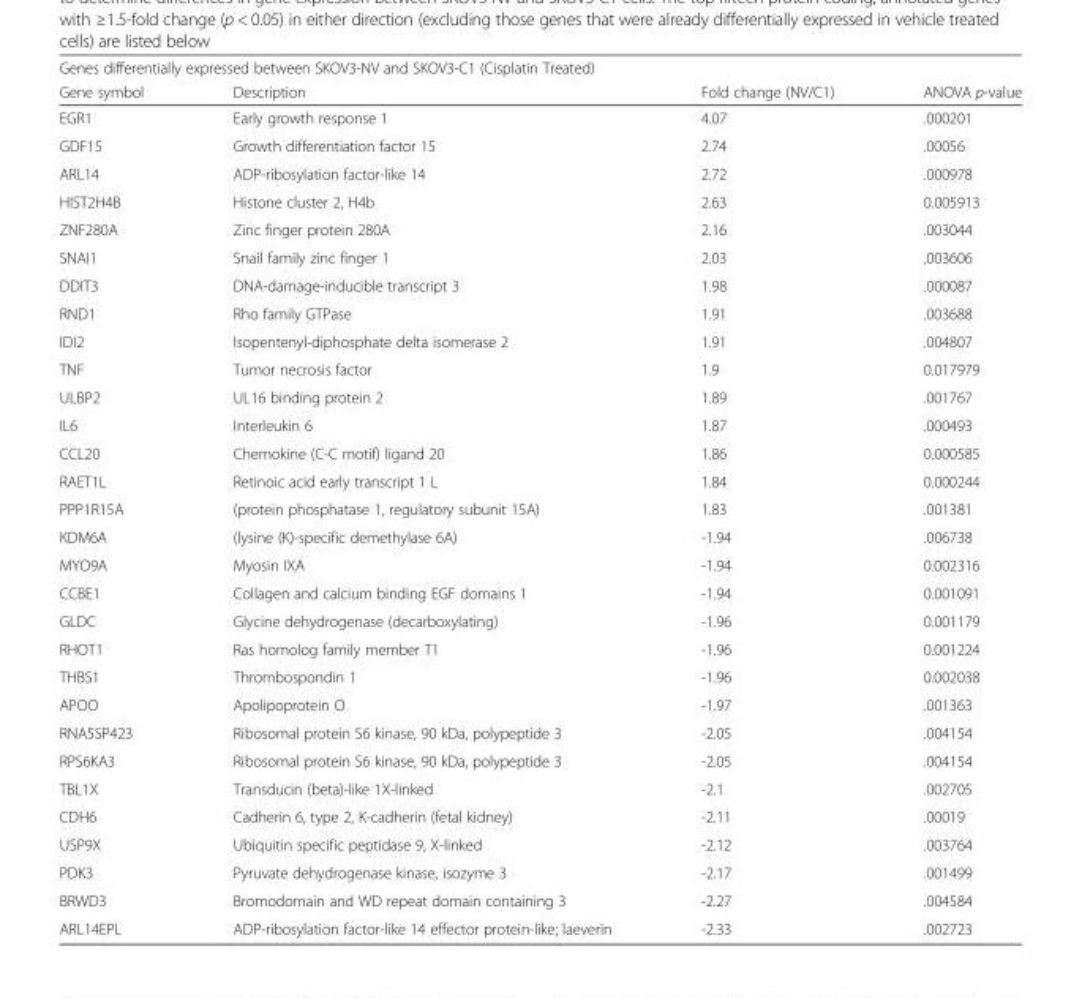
<table><thead><tr><td colspan="4">Genes differentially expressed between SKOV3-NV and SKOV3-C1 (Cisplatin Treated)</td></tr><tr><td>Gene symbol</td><td>Description</td><td>Fold change (NV/C1)</td><td>ANOVA p-value</td></tr></thead><tbody><tr><td>EGR1</td><td>Early growth response 1</td><td>4.07</td><td>.000201</td></tr><tr><td>GDF15</td><td>Growth differentiation factor 15</td><td>2.74</td><td>.00056</td></tr><tr><td>ARL14</td><td>ADP-ribosylation factor-like 14</td><td>2.72</td><td>.000978</td></tr><tr><td>HIST2H4B</td><td>Histone cluster 2, H4b</td><td>2.63</td><td>0.005913</td></tr><tr><td>ZNF280A</td><td>Zinc finger protein 280A</td><td>2.16</td><td>.003044</td></tr><tr><td>SNAI1</td><td>Snail family zinc finger 1</td><td>2.03</td><td>.003606</td></tr><tr><td>DDIT3</td><td>DNA-damage-inducible transcript 3</td><td>1.98</td><td>.000087</td></tr><tr><td>RND1</td><td>Rho family GTPase</td><td>1.91</td><td>.003688</td></tr><tr><td>IDI2</td><td>Isopentenyl-diphosphate delta isomerase 2</td><td>1.91</td><td>.004807</td></tr><tr><td>TNF</td><td>Tumor necrosis factor</td><td>1.9</td><td>0.017979</td></tr><tr><td>ULBP2</td><td>UL16 binding protein 2</td><td>1.89</td><td>.001767</td></tr><tr><td>IL6</td><td>Interleukin 6</td><td>1.87</td><td>.000493</td></tr><tr><td>CCL20</td><td>Chemokine (C-C motif) ligand 20</td><td>1.86</td><td>0.000585</td></tr><tr><td>RAET1L</td><td>Retinoic acid early transcript 1 L</td><td>1.84</td><td>0.000244</td></tr><tr><td>PPP1R15A</td><td>(protein phosphatase 1, regulatory subunit 15A)</td><td>1.83</td><td>.001381</td></tr><tr><td>KDM6A</td><td>(lysine (K)-specific demethylase 6A)</td><td>-1.94</td><td>.006738</td></tr><tr><td>MYO9A</td><td>Myosin IXA</td><td>-1.94</td><td>0.002316</td></tr><tr><td>CCBE1</td><td>Collagen and calcium binding EGF domains 1</td><td>-1.94</td><td>0.001091</td></tr><tr><td>GLDC</td><td>Glycine dehydrogenase (decarboxylating)</td><td>-1.96</td><td>0.001179</td></tr><tr><td>RHOT1</td><td>Ras homolog family member T1</td><td>-1.96</td><td>0.001224</td></tr><tr><td>THBS1</td><td>Thrombospondin 1</td><td>-1.96</td><td>0.002038</td></tr><tr><td>APOO</td><td>Apolipoprotein O</td><td>-1.97</td><td>.001363</td></tr><tr><td>RNA5SP423</td><td>Ribosomal protein S6 kinase, 90 kDa, polypeptide 3</td><td>-2.05</td><td>.004154</td></tr><tr><td>RPS6KA3</td><td>Ribosomal protein S6 kinase, 90 kDa, polypeptide 3</td><td>-2.05</td><td>.004154</td></tr><tr><td>TBL1X</td><td>Transducin (beta)-like 1X-linked</td><td>-2.1</td><td>.002705</td></tr><tr><td>CDH6</td><td>Cadherin 6, type 2, K-cadherin (fetal kidney)</td><td>-2.11</td><td>.00019</td></tr><tr><td>USP9X</td><td>Ubiquitin specific peptidase 9, X-linked</td><td>-2.12</td><td>.003764</td></tr><tr><td>PDK3</td><td>Pyruvate dehydrogenase kinase, isozyme 3</td><td>-2.17</td><td>.001499</td></tr><tr><td>BRWD3</td><td>Bromodomain and WD repeat domain containing 3</td><td>-2.27</td><td>.004584</td></tr><tr><td>ARL14EPL</td><td>ADP-ribosylation factor-like 14 effector protein-like; laeverin</td><td>-2.33</td><td>.002723</td></tr></tbody></table>